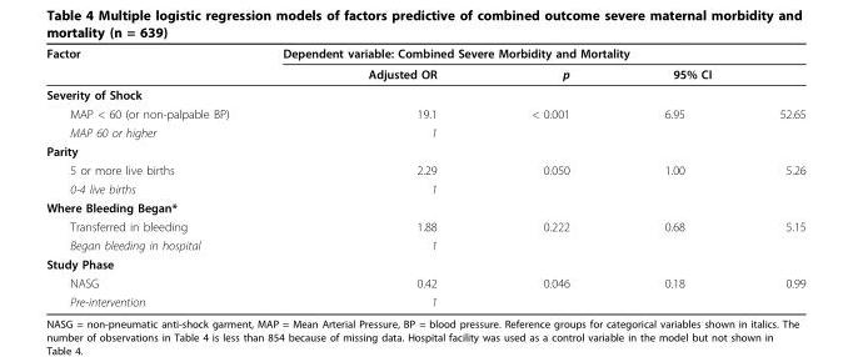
<table><thead><tr><td rowspan="3">Factor Severity of Shock</td><td colspan="4">Dependent variable: Combined Severe Morbidity and Mortality</td></tr><tr><td rowspan="2">Adjusted OR</td><td rowspan="2">p</td><td colspan="2">95% CI</td></tr><tr><td></td><td></td></tr></thead><tbody><tr><td>MAP &lt; 60 (or non-palpable BP)</td><td>19.1</td><td>&lt; 0.001</td><td>6.95</td><td>52.65</td></tr><tr><td>MAP 60 or higher</td><td>1</td><td></td><td></td><td></td></tr><tr><td colspan="5">Parity</td></tr><tr><td>5 or more live births</td><td>2.29</td><td>0.050</td><td>1.00</td><td>5.26</td></tr><tr><td>0-4 live births</td><td>1</td><td></td><td></td><td></td></tr><tr><td colspan="5">Where Bleeding Began*</td></tr><tr><td>Transferred in bleeding</td><td>1.88</td><td>0.222</td><td>0.68</td><td>5.15</td></tr><tr><td>Began bleeding in hospital</td><td>1</td><td></td><td></td><td></td></tr><tr><td colspan="5">Study Phase</td></tr><tr><td>NASG</td><td>0.42</td><td>0.046</td><td>0.18</td><td>0.99</td></tr><tr><td>Pre-intervention</td><td>1</td><td></td><td></td><td></td></tr></tbody></table>